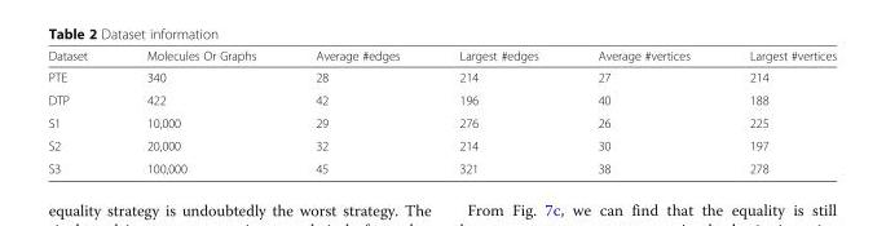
<table><thead><tr><td>Dataset</td><td>Molecules Or Graphs</td><td>Average #edges</td><td>Largest #edges</td><td>Average #vertices</td><td>Largest #vertices</td></tr></thead><tbody><tr><td>PTE</td><td>340</td><td>28</td><td>214</td><td>27</td><td>214</td></tr><tr><td>DTP</td><td>422</td><td>42</td><td>196</td><td>40</td><td>188</td></tr><tr><td>S1</td><td>10,000</td><td>29</td><td>276</td><td>26</td><td>225</td></tr><tr><td>S2</td><td>20,000</td><td>32</td><td>214</td><td>30</td><td>197</td></tr><tr><td>S3</td><td>100,000</td><td>45</td><td>321</td><td>38</td><td>278</td></tr></tbody></table>